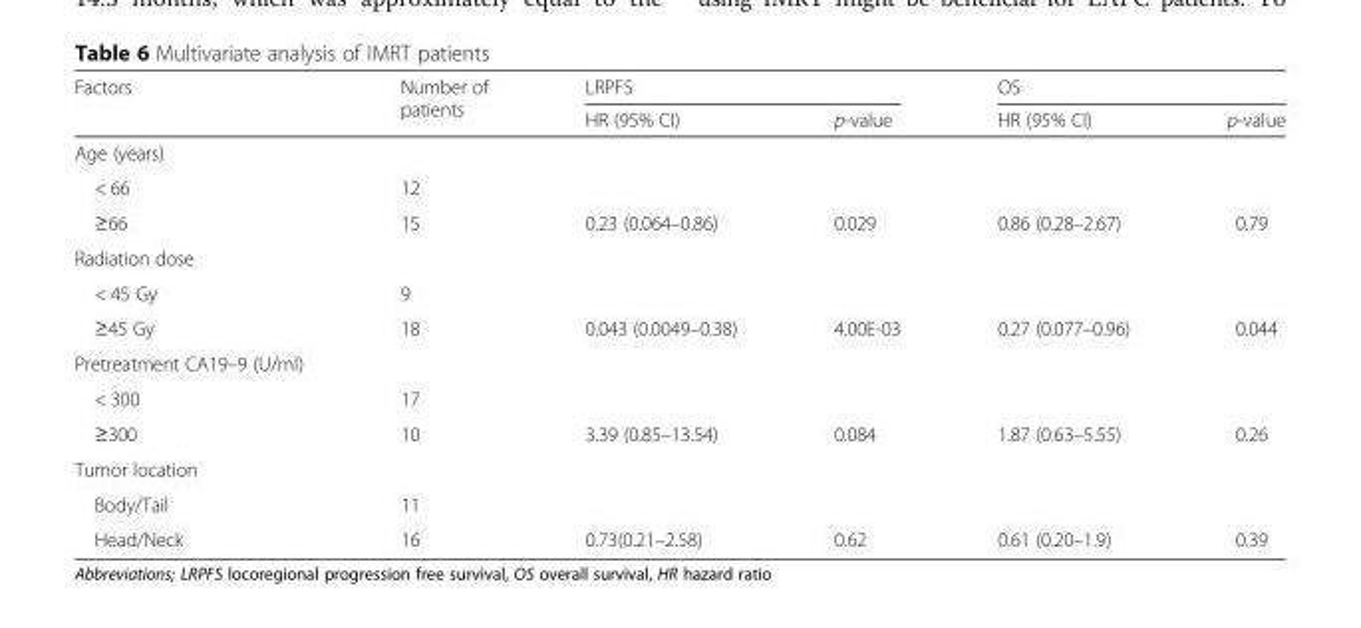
<table><thead><tr><td rowspan="2">Factors</td><td rowspan="2">Number of patients</td><td colspan="2">LRPFS</td><td colspan="2">OS</td></tr><tr><td>HR (95% CI)</td><td>p-value</td><td>HR (95% CI)</td><td>p-value</td></tr></thead><tbody><tr><td colspan="6">Age (years)</td></tr><tr><td>&lt; 66</td><td>12</td><td></td><td></td><td></td><td></td></tr><tr><td>≥66</td><td>15</td><td>0.23 (0.064–0.86)</td><td>0.029</td><td>0.86 (0.28–2.67)</td><td>0.79</td></tr><tr><td colspan="6">Radiation dose</td></tr><tr><td>&lt; 45 Gy</td><td>9</td><td></td><td></td><td></td><td></td></tr><tr><td>≥45 Gy</td><td>18</td><td>0.043 (0.0049–0.38)</td><td>4.00E-03</td><td>0.27 (0.077–0.96)</td><td>0.044</td></tr><tr><td colspan="6">Pretreatment CA19–9 (U/ml)</td></tr><tr><td>&lt; 300</td><td>17</td><td></td><td></td><td></td><td></td></tr><tr><td>≥300</td><td>10</td><td>3.39 (0.85–13.54)</td><td>0.084</td><td>1.87 (0.63–5.55)</td><td>0.26</td></tr><tr><td colspan="6">Tumor location</td></tr><tr><td>Body/Tail</td><td>11</td><td></td><td></td><td></td><td></td></tr><tr><td>Head/Neck</td><td>16</td><td>0.73(0.21–2.58)</td><td>0.62</td><td>0.61 (0.20–1.9)</td><td>0.39</td></tr></tbody></table>